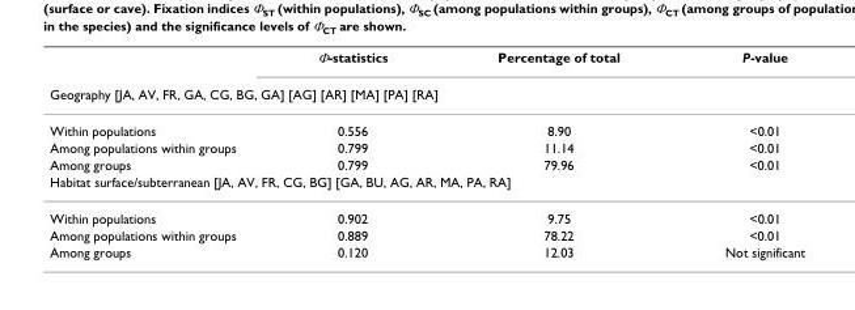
<table><thead><tr><td></td><td>Φ-statistics</td><td>Percentage of total</td><td>P-value</td></tr><tr><td colspan="4">Geography [JA, AV, FR, GA, CG, BG, GA] [AG] [AR] [MA] [PA] [RA]</td></tr></thead><tbody><tr><td>Within populations</td><td>0.556</td><td>8.90</td><td>&lt;0.01</td></tr><tr><td>Among populations within groups</td><td>0.799</td><td>11.14</td><td>&lt;0.01</td></tr><tr><td>Among groups</td><td>0.799</td><td>79.96</td><td>&lt;0.01</td></tr><tr><td colspan="4">Habitat surface/subterranean [JA, AV, FR, CG, BG] [GA, BU, AG, AR, MA, PA, RA]</td></tr><tr><td>Within populations</td><td>0.902</td><td>9.75</td><td>&lt;0.01</td></tr><tr><td>Among populations within groups</td><td>0.889</td><td>78.22</td><td>&lt;0.01</td></tr><tr><td>Among groups</td><td>0.120</td><td>12.03</td><td>Not significant</td></tr></tbody></table>